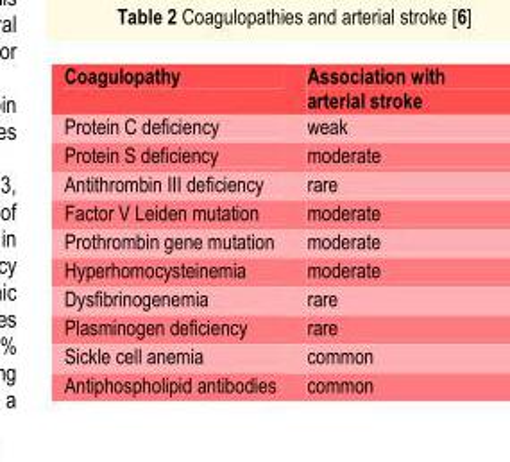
<table><thead><tr><td>Coagulopathy</td><td>Association with arterial stroke</td></tr></thead><tbody><tr><td>Protein C deficiency</td><td>weak</td></tr><tr><td>Protein S deficiency</td><td>moderate</td></tr><tr><td>Antithrombin III deficiency</td><td>rare</td></tr><tr><td>Factor V Leiden mutation</td><td>moderate</td></tr><tr><td>Prothrombin gene mutation</td><td>moderate</td></tr><tr><td>Hyperhomocysteinemia</td><td>moderate</td></tr><tr><td>Dysfibrinogenemia</td><td>rare</td></tr><tr><td>Plasminogen deficiency</td><td>rare</td></tr><tr><td>Sickle cell anemia</td><td>common</td></tr><tr><td>Antiphospholipid antibodies</td><td>common</td></tr></tbody></table>